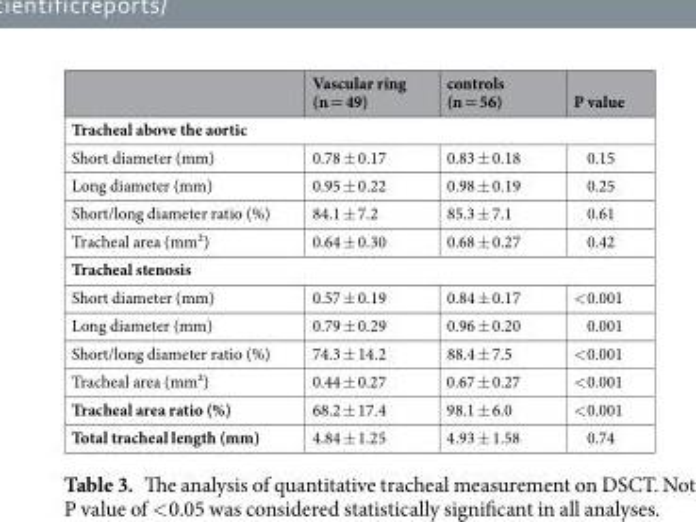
<table><thead><tr><td></td><td>Vascular ring (n = 49)</td><td>controls (n = 56)</td><td>P value</td></tr></thead><tbody><tr><td colspan="4">Tracheal above the aortic</td></tr><tr><td>Short diameter (mm)</td><td>0.78 ± 0.17</td><td>0.83 ± 0.18</td><td>0.15</td></tr><tr><td>Long diameter (mm)</td><td>0.95 ± 0.22</td><td>0.98 ± 0.19</td><td>0.25</td></tr><tr><td>Short/long diameter ratio (%)</td><td>84.1 ± 7.2</td><td>85.3 ± 7.1</td><td>0.61</td></tr><tr><td>Tracheal area (mm²)</td><td>0.64 ± 0.30</td><td>0.68 ± 0.27</td><td>0.42</td></tr><tr><td colspan="4">Tracheal stenosis</td></tr><tr><td>Short diameter (mm)</td><td>0.57 ± 0.19</td><td>0.84 ± 0.17</td><td>&lt;0.001</td></tr><tr><td>Long diameter (mm)</td><td>0.79 ± 0.29</td><td>0.96 ± 0.20</td><td>0.001</td></tr><tr><td>Short/long diameter ratio (%)</td><td>74.3 ± 14.2</td><td>88.4 ± 7.5</td><td>&lt;0.001</td></tr><tr><td>Tracheal area (mm²)</td><td>0.44 ± 0.27</td><td>0.67 ± 0.27</td><td>&lt;0.001</td></tr><tr><td>Tracheal area ratio (%)</td><td>68.2 ± 17.4</td><td>98.1 ± 6.0</td><td>&lt;0.001</td></tr><tr><td>Total tracheal length (mm)</td><td>4.84 ± 1.25</td><td>4.93 ± 1.58</td><td>0.74</td></tr></tbody></table>